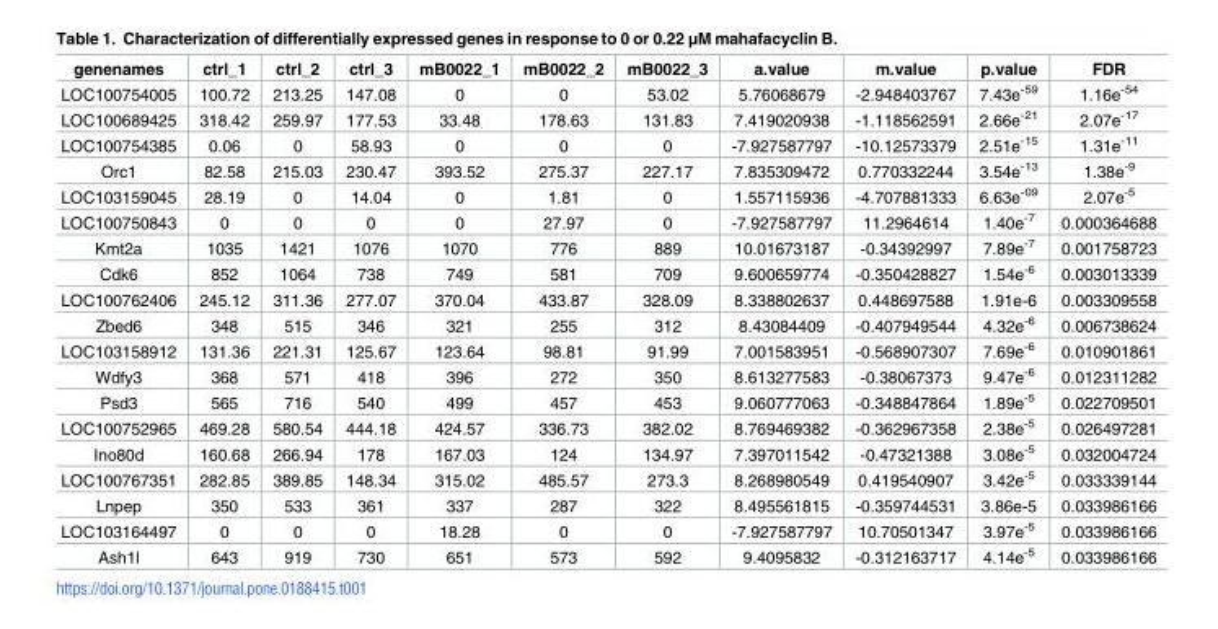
<table><thead><tr><td>genenames</td><td>ctrl_1</td><td>ctrl_2</td><td>ctrl_3</td><td>mB0022_1</td><td>mB0022_2</td><td>mB0022_3</td><td>a.value</td><td>m.value</td><td>p.value</td><td>FDR</td></tr></thead><tbody><tr><td>LOC100754005</td><td>100.72</td><td>213.25</td><td>147.08</td><td>0</td><td>0</td><td>53.02</td><td>5.76068679</td><td>-2.948403767</td><td>7.43e<sup>-59</sup></td><td>1.16e<sup>-54</sup></td></tr><tr><td>LOC100689425</td><td>318.42</td><td>259.97</td><td>177.53</td><td>33.48</td><td>178.63</td><td>131.83</td><td>7.419020938</td><td>-1.118562591</td><td>2.66e<sup>-21</sup></td><td>2.07e<sup>-17</sup></td></tr><tr><td>LOC100754385</td><td>0.06</td><td>0</td><td>58.93</td><td>0</td><td>0</td><td>0</td><td>-7.927587797</td><td>-10.12573379</td><td>2.51e<sup>-15</sup></td><td>1.31e<sup>-11</sup></td></tr><tr><td>Orc1</td><td>82.58</td><td>215.03</td><td>230.47</td><td>393.52</td><td>275.37</td><td>227.17</td><td>7.835309472</td><td>0.770332244</td><td>3.54e<sup>-13</sup></td><td>1.38e<sup>-9</sup></td></tr><tr><td>LOC103159045</td><td>28.19</td><td>0</td><td>14.04</td><td>0</td><td>1.81</td><td>0</td><td>1.557115936</td><td>-4.707881333</td><td>6.63e<sup>-09</sup></td><td>2.07e<sup>-5</sup></td></tr><tr><td>LOC100750843</td><td>0</td><td>0</td><td>0</td><td>0</td><td>27.97</td><td>0</td><td>-7.927587797</td><td>11.2964614</td><td>1.40e<sup>-7</sup></td><td>0.000364688</td></tr><tr><td>Kmt2a</td><td>1035</td><td>1421</td><td>1076</td><td>1070</td><td>776</td><td>889</td><td>10.01673187</td><td>-0.34392997</td><td>7.89e<sup>-7</sup></td><td>0.001758723</td></tr><tr><td>Cdk6</td><td>852</td><td>1064</td><td>738</td><td>749</td><td>581</td><td>709</td><td>9.600659774</td><td>-0.350428827</td><td>1.54e<sup>-6</sup></td><td>0.003013339</td></tr><tr><td>LOC100762406</td><td>245.12</td><td>311.36</td><td>277.07</td><td>370.04</td><td>433.87</td><td>328.09</td><td>8.338802637</td><td>0.448697588</td><td>1.91e-6</td><td>0.003309558</td></tr><tr><td>Zbed6</td><td>348</td><td>515</td><td>346</td><td>321</td><td>255</td><td>312</td><td>8.43084409</td><td>-0.407949544</td><td>4.32e<sup>-6</sup></td><td>0.006738624</td></tr><tr><td>LOC103158912</td><td>131.36</td><td>221.31</td><td>125.67</td><td>123.64</td><td>98.81</td><td>91.99</td><td>7.001583951</td><td>-0.568907307</td><td>7.69e<sup>-6</sup></td><td>0.010901861</td></tr><tr><td>Wdfy3</td><td>368</td><td>571</td><td>418</td><td>396</td><td>272</td><td>350</td><td>8.613277583</td><td>-0.38067373</td><td>9.47e<sup>-6</sup></td><td>0.012311282</td></tr><tr><td>Psd3</td><td>565</td><td>716</td><td>540</td><td>499</td><td>457</td><td>453</td><td>9.060777063</td><td>-0.348847864</td><td>1.89e<sup>-5</sup></td><td>0.022709501</td></tr><tr><td>LOC100752965</td><td>469.28</td><td>580.54</td><td>444.18</td><td>424.57</td><td>336.73</td><td>382.02</td><td>8.769469382</td><td>-0.362967358</td><td>2.38e<sup>-5</sup></td><td>0.026497281</td></tr><tr><td>Ino80d</td><td>160.68</td><td>266.94</td><td>178</td><td>167.03</td><td>124</td><td>134.97</td><td>7.397011542</td><td>-0.47321388</td><td>3.08e<sup>-5</sup></td><td>0.032004724</td></tr><tr><td>LOC100767351</td><td>282.85</td><td>389.85</td><td>148.34</td><td>315.02</td><td>485.57</td><td>273.3</td><td>8.268980549</td><td>0.419540907</td><td>3.42e<sup>-5</sup></td><td>0.033339144</td></tr><tr><td>Lnpep</td><td>350</td><td>533</td><td>361</td><td>337</td><td>287</td><td>322</td><td>8.495561815</td><td>-0.359744531</td><td>3.86e-5</td><td>0.033986166</td></tr><tr><td>LOC103164497</td><td>0</td><td>0</td><td>0</td><td>18.28</td><td>0</td><td>0</td><td>-7.927587797</td><td>10.70501347</td><td>3.97e<sup>-5</sup></td><td>0.033986166</td></tr><tr><td>Ash1l</td><td>643</td><td>919</td><td>730</td><td>651</td><td>573</td><td>592</td><td>9.4095832</td><td>-0.312163717</td><td>4.14e<sup>-5</sup></td><td>0.033986166</td></tr></tbody></table>